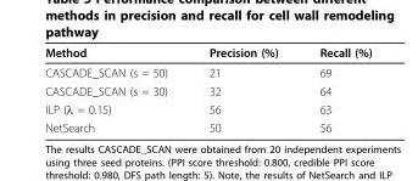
<table><thead><tr><td>Method</td><td>Precision (%)</td><td>Recall (%)</td></tr></thead><tbody><tr><td>CASCADE_SCAN (s = 50)</td><td>21</td><td>69</td></tr><tr><td>CASCADE_SCAN (s = 30)</td><td>32</td><td>64</td></tr><tr><td>ILP (λ = 0.15)</td><td>56</td><td>63</td></tr><tr><td>NetSearch</td><td>50</td><td>56</td></tr></tbody></table>